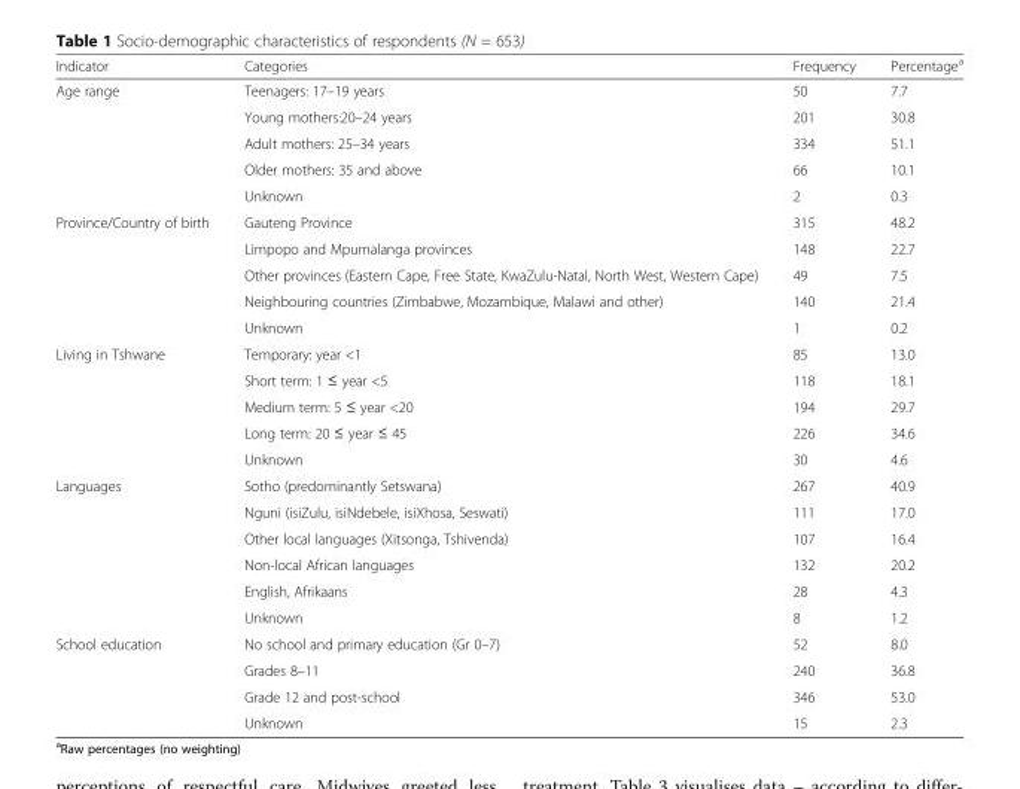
<table><thead><tr><td>Indicator</td><td>Categories</td><td>Frequency</td><td>Percentage<sup>a</sup></td></tr></thead><tbody><tr><td rowspan="5">Age range</td><td>Teenagers: 17–19 years</td><td>50</td><td>7.7</td></tr><tr><td>Young mothers:20–24 years</td><td>201</td><td>30.8</td></tr><tr><td>Adult mothers: 25–34 years</td><td>334</td><td>51.1</td></tr><tr><td>Older mothers: 35 and above</td><td>66</td><td>10.1</td></tr><tr><td>Unknown</td><td>2</td><td>0.3</td></tr><tr><td rowspan="5">Province/Country of birth</td><td>Gauteng Province</td><td>315</td><td>48.2</td></tr><tr><td>Limpopo and Mpumalanga provinces</td><td>148</td><td>22.7</td></tr><tr><td>Other provinces (Eastern Cape, Free State, KwaZulu-Natal, North West, Western Cape)</td><td>49</td><td>7.5</td></tr><tr><td>Neighbouring countries (Zimbabwe, Mozambique, Malawi and other)</td><td>140</td><td>21.4</td></tr><tr><td>Unknown</td><td>1</td><td>0.2</td></tr><tr><td rowspan="5">Living in Tshwane</td><td>Temporary: year &lt;1</td><td>85</td><td>13.0</td></tr><tr><td>Short term: 1 ≤ year &lt;5</td><td>118</td><td>18.1</td></tr><tr><td>Medium term: 5 ≤ year &lt;20</td><td>194</td><td>29.7</td></tr><tr><td>Long term: 20 ≤ year ≤ 45</td><td>226</td><td>34.6</td></tr><tr><td>Unknown</td><td>30</td><td>4.6</td></tr><tr><td rowspan="6">Languages</td><td>Sotho (predominantly Setswana)</td><td>267</td><td>40.9</td></tr><tr><td>Nguni (isiZulu, isiNdebele, isiXhosa, Seswati)</td><td>111</td><td>17.0</td></tr><tr><td>Other local languages (Xitsonga, Tshivenda)</td><td>107</td><td>16.4</td></tr><tr><td>Non-local African languages</td><td>132</td><td>20.2</td></tr><tr><td>English, Afrikaans</td><td>28</td><td>4.3</td></tr><tr><td>Unknown</td><td>8</td><td>1.2</td></tr><tr><td rowspan="4">School education</td><td>No school and primary education (Gr 0–7)</td><td>52</td><td>8.0</td></tr><tr><td>Grades 8–11</td><td>240</td><td>36.8</td></tr><tr><td>Grade 12 and post-school</td><td>346</td><td>53.0</td></tr><tr><td>Unknown</td><td>15</td><td>2.3</td></tr></tbody></table>